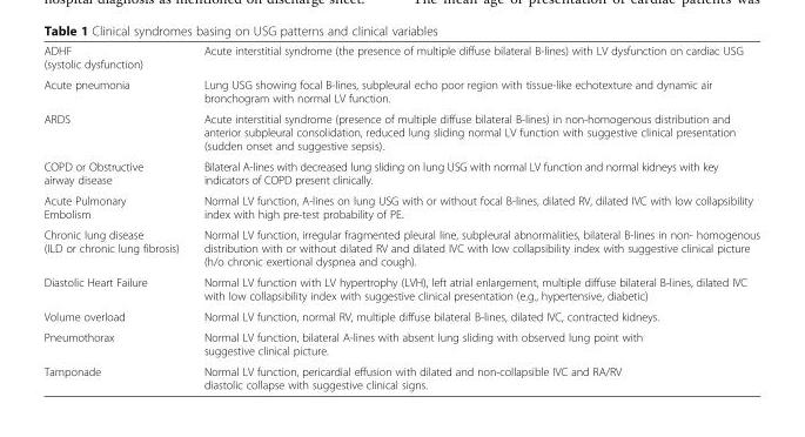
<table><tbody><tr><td>ADHF (systolic dysfunction)</td><td>Acute interstitial syndrome (the presence of multiple diffuse bilateral B-lines) with LV dysfunction on cardiac USG</td></tr><tr><td>Acute pneumonia</td><td>Lung USG showing focal B-lines, subpleural echo poor region with tissue-like echotexture and dynamic air bronchogram with normal LV function.</td></tr><tr><td>ARDS</td><td>Acute interstitial syndrome (presence of multiple diffuse bilateral B-lines) in non-homogenous distribution and anterior subpleural consolidation, reduced lung sliding normal LV function with suggestive clinical presentation (sudden onset and suggestive sepsis).</td></tr><tr><td>COPD or Obstructive airway disease</td><td>Bilateral A-lines with decreased lung sliding on lung USG with normal LV function and normal kidneys with key indicators of COPD present clinically.</td></tr><tr><td>Acute Pulmonary Embolism</td><td>Normal LV function, A-lines on lung USG with or without focal B-lines, dilated RV, dilated IVC with low collapsibility index with high pre-test probability of PE.</td></tr><tr><td>Chronic lung disease (ILD or chronic lung fibrosis)</td><td>Normal LV function, irregular fragmented pleural line, subpleural abnormalities, bilateral B-lines in non- homogenous distribution with or without dilated RV and dilated IVC with low collapsibility index with suggestive clinical picture (h/o chronic exertional dyspnea and cough).</td></tr><tr><td>Diastolic Heart Failure</td><td>Normal LV function with LV hypertrophy (LVH), left atrial enlargement, multiple diffuse bilateral B-lines, dilated IVC with low collapsibility index with suggestive clinical presentation (e.g., hypertensive, diabetic)</td></tr><tr><td>Volume overload</td><td>Normal LV function, normal RV, multiple diffuse bilateral B-lines, dilated IVC, contracted kidneys.</td></tr><tr><td>Pneumothorax</td><td>Normal LV function, bilateral A-lines with absent lung sliding with observed lung point with suggestive clinical picture.</td></tr><tr><td>Tamponade</td><td>Normal LV function, pericardial effusion with dilated and non-collapsible IVC and RA/RV diastolic collapse with suggestive clinical signs.</td></tr></tbody></table>